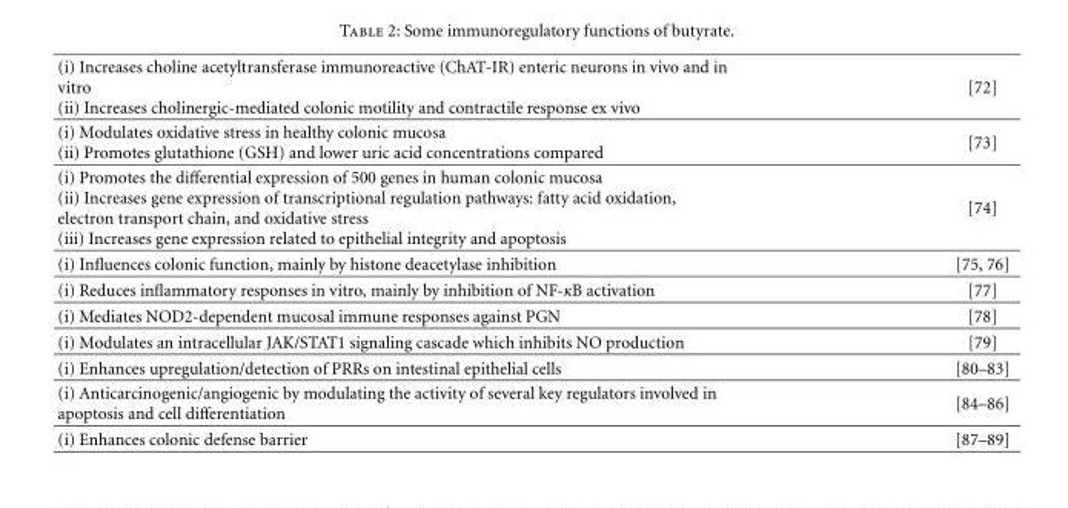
<table><tbody><tr><td>(i) Increases choline acetyltransferase immunoreactive (ChAT-IR) enteric neurons in vivo and in vitro (ii) Increases cholinergic-mediated colonic motility and contractile response ex vivo</td><td>[72]</td></tr><tr><td>(i) Modulates oxidative stress in healthy colonic mucosa (ii) Promotes glutathione (GSH) and lower uric acid concentrations compared</td><td>[73]</td></tr><tr><td>(i) Promotes the differential expression of 500 genes in human colonic mucosa (ii) Increases gene expression of transcriptional regulation pathways: fatty acid oxidation, electron transport chain, and oxidative stress (iii) Increases gene expression related to epithelial integrity and apoptosis</td><td>[74]</td></tr><tr><td>(i) Influences colonic function, mainly by histone deacetylase inhibition</td><td>[75, 76]</td></tr><tr><td>(i) Reduces inflammatory responses in vitro, mainly by inhibition of NF-κB activation</td><td>[77]</td></tr><tr><td>(i) Mediates NOD2-dependent mucosal immune responses against PGN</td><td>[78]</td></tr><tr><td>(i) Modulates an intracellular JAK/STAT1 signaling cascade which inhibits NO production</td><td>[79]</td></tr><tr><td>(i) Enhances upregulation/detection of PRRs on intestinal epithelial cells</td><td>[80–83]</td></tr><tr><td>(i) Anticarcinogenic/angiogenic by modulating the activity of several key regulators involved in apoptosis and cell differentiation</td><td>[84–86]</td></tr><tr><td>(i) Enhances colonic defense barrier</td><td>[87–89]</td></tr></tbody></table>